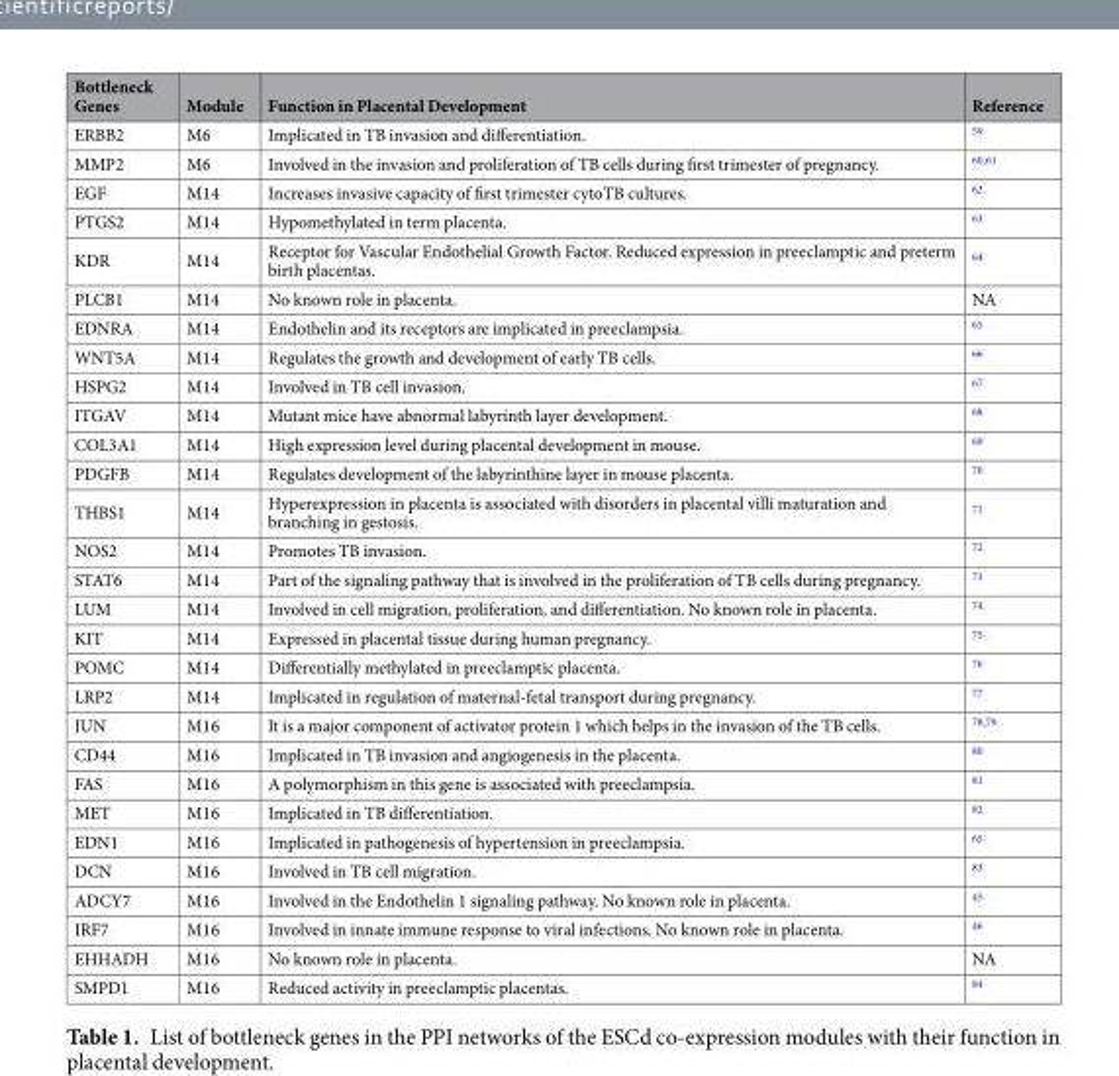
<table><thead><tr><td>Bottleneck Genes</td><td>Module</td><td>Function in Placental Development</td><td>Reference</td></tr></thead><tbody><tr><td>ERBB2</td><td>M6</td><td>Implicated in TB invasion and differentiation.</td><td><sup>59</sup></td></tr><tr><td>MMP2</td><td>M6</td><td>Involved in the invasion and proliferation of TB cells during first trimester of pregnancy.</td><td><sup>60,61</sup></td></tr><tr><td>EGF</td><td>M14</td><td>Increases invasive capacity of first trimester cytoTB cultures.</td><td><sup>62</sup></td></tr><tr><td>PTGS2</td><td>M14</td><td>Hypomethylated in term placenta.</td><td><sup>63</sup></td></tr><tr><td>KDR</td><td>M14</td><td>Receptor for Vascular Endothelial Growth Factor. Reduced expression in preeclamptic and preterm birth placentas.</td><td><sup>64</sup></td></tr><tr><td>PLCB1</td><td>M14</td><td>No known role in placenta.</td><td>NA</td></tr><tr><td>EDNRA</td><td>M14</td><td>Endothelin and its receptors are implicated in preeclampsia.</td><td><sup>65</sup></td></tr><tr><td>WNT5A</td><td>M14</td><td>Regulates the growth and development of early TB cells.</td><td><sup>66</sup></td></tr><tr><td>HSPG2</td><td>M14</td><td>Involved in TB cell invasion.</td><td><sup>67</sup></td></tr><tr><td>ITGAV</td><td>M14</td><td>Mutant mice have abnormal labyrinth layer development.</td><td><sup>68</sup></td></tr><tr><td>COL3A1</td><td>M14</td><td>High expression level during placental development in mouse.</td><td><sup>69</sup></td></tr><tr><td>PDGFB</td><td>M14</td><td>Regulates development of the labyrinthine layer in mouse placenta.</td><td><sup>70</sup></td></tr><tr><td>THBS1</td><td>M14</td><td>Hyperexpression in placenta is associated with disorders in placental villi maturation and branching in gestosis.</td><td><sup>71</sup></td></tr><tr><td>NOS2</td><td>M14</td><td>Promotes TB invasion.</td><td><sup>72</sup></td></tr><tr><td>STAT6</td><td>M14</td><td>Part of the signaling pathway that is involved in the proliferation of TB cells during pregnancy.</td><td><sup>73</sup></td></tr><tr><td>LUM</td><td>M14</td><td>Involved in cell migration, proliferation, and differentiation. No known role in placenta.</td><td><sup>74</sup></td></tr><tr><td>KIT</td><td>M14</td><td>Expressed in placental tissue during human pregnancy.</td><td><sup>75</sup></td></tr><tr><td>POMC</td><td>M14</td><td>Differentially methylated in preeclamptic placenta.</td><td><sup>76</sup></td></tr><tr><td>LRP2</td><td>M14</td><td>Implicated in regulation of maternal-fetal transport during pregnancy.</td><td><sup>77</sup></td></tr><tr><td>JUN</td><td>M16</td><td>It is a major component of activator protein 1 which helps in the invasion of the TB cells.</td><td><sup>78,79</sup></td></tr><tr><td>CD44</td><td>M16</td><td>Implicated in TB invasion and angiogenesis in the placenta.</td><td><sup>80</sup></td></tr><tr><td>FAS</td><td>M16</td><td>A polymorphism in this gene is associated with preeclampsia.</td><td><sup>81</sup></td></tr><tr><td>MET</td><td>M16</td><td>Implicated in TB differentiation.</td><td><sup>82</sup></td></tr><tr><td>EDN1</td><td>M16</td><td>Implicated in pathogenesis of hypertension in preeclampsia.</td><td><sup>65</sup></td></tr><tr><td>DCN</td><td>M16</td><td>Involved in TB cell migration.</td><td><sup>83</sup></td></tr><tr><td>ADCY7</td><td>M16</td><td>Involved in the Endothelin 1 signaling pathway. No known role in placenta.</td><td><sup>45</sup></td></tr><tr><td>IRF7</td><td>M16</td><td>Involved in innate immune response to viral infections. No known role in placenta.</td><td><sup>46</sup></td></tr><tr><td>EHHADH</td><td>M16</td><td>No known role in placenta.</td><td>NA</td></tr><tr><td>SMPD1</td><td>M16</td><td>Reduced activity in preeclamptic placentas.</td><td><sup>84</sup></td></tr></tbody></table>